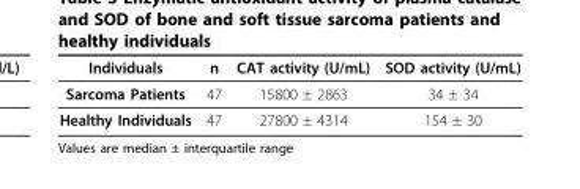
<table><thead><tr><td>Individuals</td><td>n</td><td>CAT activity (U/mL)</td><td>SOD activity (U/mL)</td></tr></thead><tbody><tr><td>Sarcoma Patients</td><td>47</td><td>15800 ± 2863</td><td>34 ± 34</td></tr><tr><td>Healthy Individuals</td><td>47</td><td>27800 ± 4314</td><td>154 ± 30</td></tr></tbody></table>